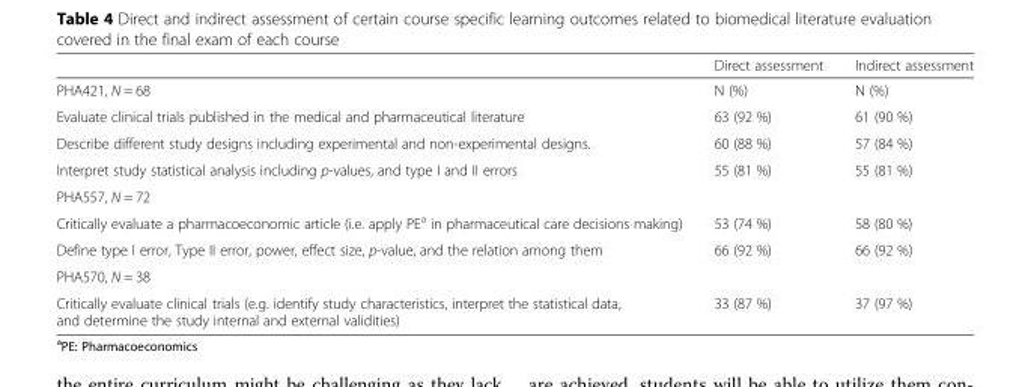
<table><thead><tr><td></td><td>Direct assessment</td><td>Indirect assessment</td></tr></thead><tbody><tr><td>PHA421, N = 68</td><td>N (%)</td><td>N (%)</td></tr><tr><td>Evaluate clinical trials published in the medical and pharmaceutical literature</td><td>63 (92 %)</td><td>61 (90 %)</td></tr><tr><td>Describe different study designs including experimental and non-experimental designs.</td><td>60 (88 %)</td><td>57 (84 %)</td></tr><tr><td>Interpret study statistical analysis including p-values, and type I and II errors</td><td>55 (81 %)</td><td>55 (81 %)</td></tr><tr><td colspan="3">PHA557, N = 72</td></tr><tr><td>Critically evaluate a pharmacoeconomic article (i.e. apply PE<sup>a</sup> in pharmaceutical care decisions making)</td><td>53 (74 %)</td><td>58 (80 %)</td></tr><tr><td>Define type I error, Type II error, power, effect size, p-value, and the relation among them</td><td>66 (92 %)</td><td>66 (92 %)</td></tr><tr><td colspan="3">PHA570, N = 38</td></tr><tr><td>Critically evaluate clinical trials (e.g. identify study characteristics, interpret the statistical data, and determine the study internal and external validities)</td><td>33 (87 %)</td><td>37 (97 %)</td></tr></tbody></table>